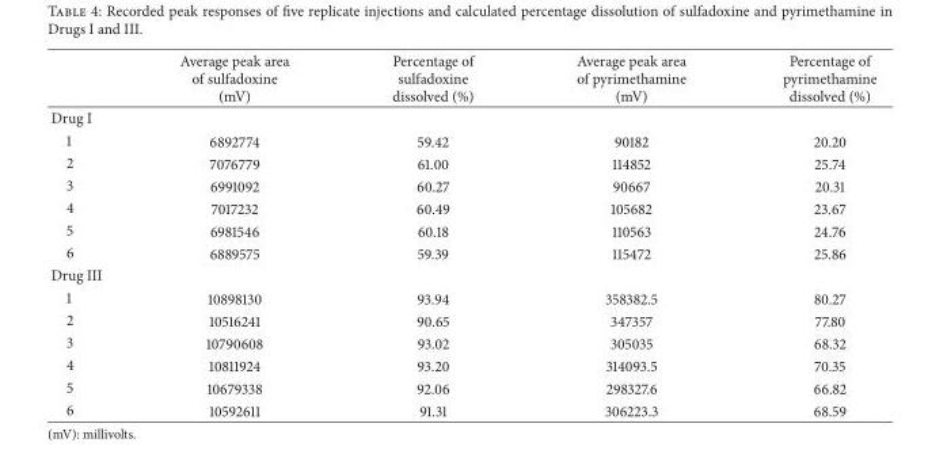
<table><thead><tr><td></td><td>Average peak area of sulfadoxine (mV)</td><td>Percentage of sulfadoxine dissolved (%)</td><td>Average peak area of pyrimethamine (mV)</td><td>Percentage of pyrimethamine dissolved (%)</td></tr></thead><tbody><tr><td colspan="5">Drug I</td></tr><tr><td>1</td><td>6892774</td><td>59.42</td><td>90182</td><td>20.20</td></tr><tr><td>2</td><td>7076779</td><td>61.00</td><td>114852</td><td>25.74</td></tr><tr><td>3</td><td>6991092</td><td>60.27</td><td>90667</td><td>20.31</td></tr><tr><td>4</td><td>7017232</td><td>60.49</td><td>105682</td><td>23.67</td></tr><tr><td>5</td><td>6981546</td><td>60.18</td><td>110563</td><td>24.76</td></tr><tr><td>6</td><td>6889575</td><td>59.39</td><td>115472</td><td>25.86</td></tr><tr><td colspan="5">Drug III</td></tr><tr><td>1</td><td>10898130</td><td>93.94</td><td>358382.5</td><td>80.27</td></tr><tr><td>2</td><td>10516241</td><td>90.65</td><td>347357</td><td>77.80</td></tr><tr><td>3</td><td>10790608</td><td>93.02</td><td>305035</td><td>68.32</td></tr><tr><td>4</td><td>10811924</td><td>93.20</td><td>314093.5</td><td>70.35</td></tr><tr><td>5</td><td>10679338</td><td>92.06</td><td>298327.6</td><td>66.82</td></tr><tr><td>6</td><td>10592611</td><td>91.31</td><td>306223.3</td><td>68.59</td></tr></tbody></table>